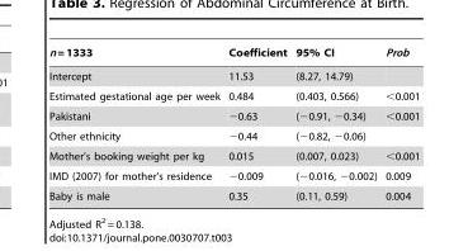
<table><thead><tr><td>n = 1333</td><td>Coefficient</td><td>95% CI</td><td>Prob</td></tr></thead><tbody><tr><td>Intercept</td><td>11.53</td><td>(8.27, 14.79)</td><td></td></tr><tr><td>Estimated gestational age per week</td><td>0.484</td><td>(0.403, 0.566)</td><td>&lt;0.001</td></tr><tr><td>Pakistani</td><td>−0.63</td><td>(−0.91, −0.34)</td><td>&lt;0.001</td></tr><tr><td>Other ethnicity</td><td>−0.44</td><td>(−0.82, −0.06)</td><td></td></tr><tr><td>Mother’s booking weight per kg</td><td>0.015</td><td>(0.007, 0.023)</td><td>&lt;0.001</td></tr><tr><td>IMD (2007) for mother’s residence</td><td>−0.009</td><td>(−0.016, −0.002)</td><td>0.009</td></tr><tr><td>Baby is male</td><td>0.35</td><td>(0.11, 0.59)</td><td>0.004</td></tr></tbody></table>